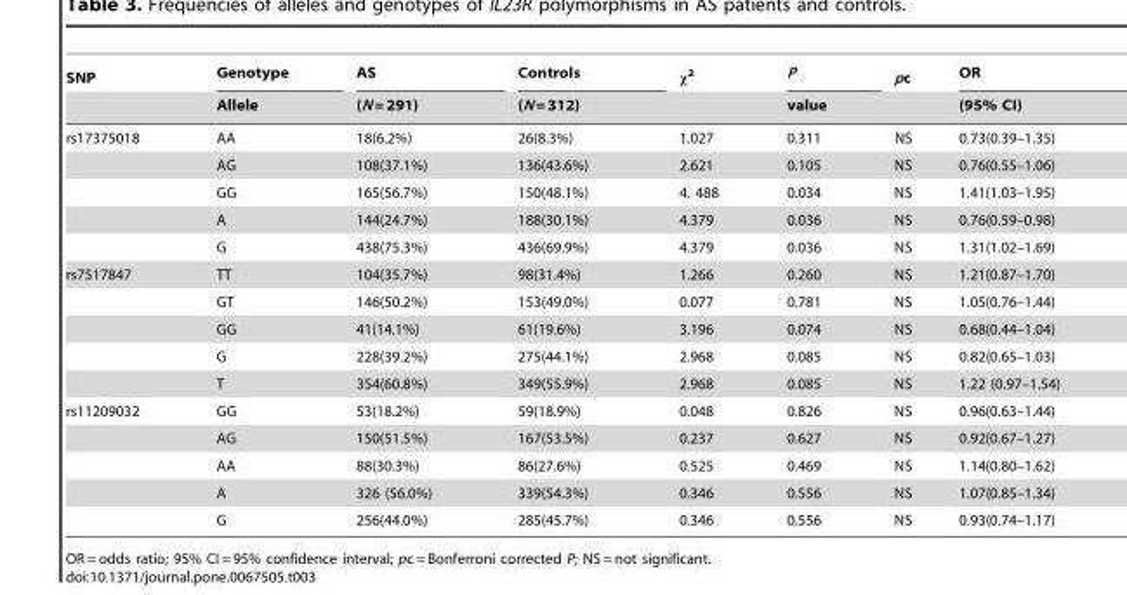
<table><thead><tr><td rowspan="2">SNP</td><td rowspan="2">Genotype Allele</td><td rowspan="2">AS (N = 291)</td><td rowspan="2">Controls (N = 312)</td><td rowspan="2">χ<sup>2</sup></td><td rowspan="2">P value</td><td rowspan="2">pc</td><td rowspan="2">OR (95% CI)</td></tr><tr></tr></thead><tbody><tr><td rowspan="5">rs17375018</td><td>AA</td><td>18(6.2%)</td><td>26(8.3%)</td><td>1.027</td><td>0.311</td><td>NS</td><td>0.73(0.39–1.35)</td></tr><tr><td>AG</td><td>108(37.1%)</td><td>136(43.6%)</td><td>2.621</td><td>0.105</td><td>NS</td><td>0.76(0.55–1.06)</td></tr><tr><td>GG</td><td>165(56.7%)</td><td>150(48.1%)</td><td>4. 488</td><td>0.034</td><td>NS</td><td>1.41(1.03–1.95)</td></tr><tr><td>A</td><td>144(24.7%)</td><td>188(30.1%)</td><td>4.379</td><td>0.036</td><td>NS</td><td>0.76(0.59–0.98)</td></tr><tr><td>G</td><td>438(75.3%)</td><td>436(69.9%)</td><td>4.379</td><td>0.036</td><td>NS</td><td>1.31(1.02–1.69)</td></tr><tr><td rowspan="5">rs7517847</td><td>TT</td><td>104(35.7%)</td><td>98(31.4%)</td><td>1.266</td><td>0.260</td><td>NS</td><td>1.21(0.87–1.70)</td></tr><tr><td>GT</td><td>146(50.2%)</td><td>153(49.0%)</td><td>0.077</td><td>0.781</td><td>NS</td><td>1.05(0.76–1.44)</td></tr><tr><td>GG</td><td>41(14.1%)</td><td>61(19.6%)</td><td>3.196</td><td>0.074</td><td>NS</td><td>0.68(0.44–1.04)</td></tr><tr><td>G</td><td>228(39.2%)</td><td>275(44.1%)</td><td>2.968</td><td>0.085</td><td>NS</td><td>0.82(0.65–1.03)</td></tr><tr><td>T</td><td>354(60.8%)</td><td>349(55.9%)</td><td>2.968</td><td>0.085</td><td>NS</td><td>1.22 (0.97–1.54)</td></tr><tr><td rowspan="5">rs11209032</td><td>GG</td><td>53(18.2%)</td><td>59(18.9%)</td><td>0.048</td><td>0.826</td><td>NS</td><td>0.96(0.63–1.44)</td></tr><tr><td>AG</td><td>150(51.5%)</td><td>167(53.5%)</td><td>0.237</td><td>0.627</td><td>NS</td><td>0.92(0.67–1.27)</td></tr><tr><td>AA</td><td>88(30.3%)</td><td>86(27.6%)</td><td>0.525</td><td>0.469</td><td>NS</td><td>1.14(0.80–1.62)</td></tr><tr><td>A</td><td>326 (56.0%)</td><td>339(54.3%)</td><td>0.346</td><td>0.556</td><td>NS</td><td>1.07(0.85–1.34)</td></tr><tr><td>G</td><td>256(44.0%)</td><td>285(45.7%)</td><td>0.346</td><td>0.556</td><td>NS</td><td>0.93(0.74–1.17)</td></tr></tbody></table>